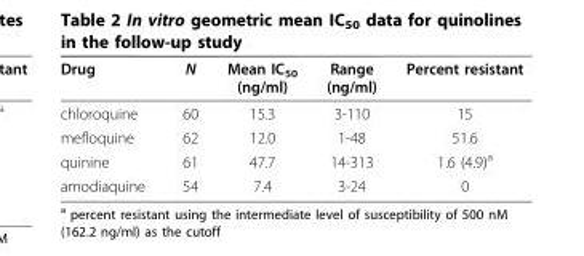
<table><thead><tr><td>Drug</td><td>N</td><td>Mean IC<sub>50</sub> (ng/ml)</td><td>Range (ng/ml)</td><td>Percent resistant</td></tr></thead><tbody><tr><td>chloroquine</td><td>60</td><td>15.3</td><td>3-110</td><td>15</td></tr><tr><td>mefloquine</td><td>62</td><td>12.0</td><td>1-48</td><td>51.6</td></tr><tr><td>quinine</td><td>61</td><td>47.7</td><td>14-313</td><td>1.6 (4.9)<sup>a</sup></td></tr><tr><td>amodiaquine</td><td>54</td><td>7.4</td><td>3-24</td><td>0</td></tr></tbody></table>